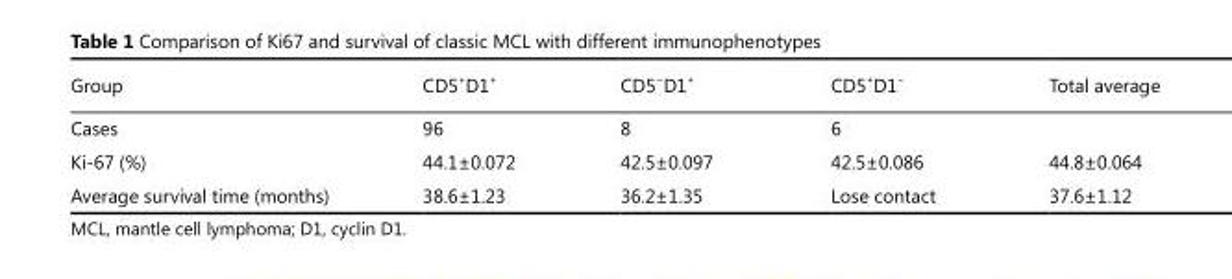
<table><thead><tr><td>Group</td><td>CD5 <sup>+</sup>D1 <sup>+</sup></td><td>CD5 <sup>−</sup>D1 <sup>+</sup></td><td>CD5 <sup>+</sup>D1 <sup>−</sup></td><td>Total average</td></tr></thead><tbody><tr><td>Cases</td><td>96</td><td>8</td><td>6</td><td></td></tr><tr><td>Ki-67 (%)</td><td>44.1±0.072</td><td>42.5±0.097</td><td>42.5±0.086</td><td>44.8±0.064</td></tr><tr><td>Average survival time (months)</td><td>38.6±1.23</td><td>36.2±1.35</td><td>Lose contact</td><td>37.6±1.12</td></tr></tbody></table>